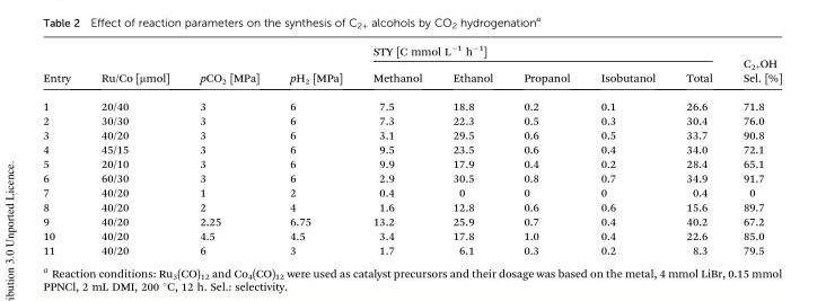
<table><thead><tr><td rowspan="2">Entry</td><td rowspan="2">Ru/Co [μmol]</td><td rowspan="2">pCO<sub>2</sub> [MPa]</td><td rowspan="2">pH<sub>2</sub> [MPa]</td><td colspan="5">STY [C mmol L<sup>–1</sup> h<sup>–1</sup>]</td><td rowspan="2">C<sub>2+</sub>OH Sel. [%]</td></tr><tr><td>Methanol</td><td>Ethanol</td><td>Propanol</td><td>Isobutanol</td><td>Total</td></tr></thead><tbody><tr><td>1</td><td>20/40</td><td>3</td><td>6</td><td>7.5</td><td>18.8</td><td>0.2</td><td>0.1</td><td>26.6</td><td>71.8</td></tr><tr><td>2</td><td>30/30</td><td>3</td><td>6</td><td>7.3</td><td>22.3</td><td>0.5</td><td>0.3</td><td>30.4</td><td>76.0</td></tr><tr><td>3</td><td>40/20</td><td>3</td><td>6</td><td>3.1</td><td>29.5</td><td>0.6</td><td>0.5</td><td>33.7</td><td>90.8</td></tr><tr><td>4</td><td>45/15</td><td>3</td><td>6</td><td>9.5</td><td>23.5</td><td>0.6</td><td>0.4</td><td>34.0</td><td>72.1</td></tr><tr><td>5</td><td>20/10</td><td>3</td><td>6</td><td>9.9</td><td>17.9</td><td>0.4</td><td>0.2</td><td>28.4</td><td>65.1</td></tr><tr><td>6</td><td>60/30</td><td>3</td><td>6</td><td>2.9</td><td>30.5</td><td>0.8</td><td>0.7</td><td>34.9</td><td>91.7</td></tr><tr><td>7</td><td>40/20</td><td>1</td><td>2</td><td>0.4</td><td>0</td><td>0</td><td>0</td><td>0.4</td><td>0</td></tr><tr><td>8</td><td>40/20</td><td>2</td><td>4</td><td>1.6</td><td>12.8</td><td>0.6</td><td>0.6</td><td>15.6</td><td>89.7</td></tr><tr><td>9</td><td>40/20</td><td>2.25</td><td>6.75</td><td>13.2</td><td>25.9</td><td>0.7</td><td>0.4</td><td>40.2</td><td>67.2</td></tr><tr><td>10</td><td>40/20</td><td>4.5</td><td>4.5</td><td>3.4</td><td>17.8</td><td>1.0</td><td>0.4</td><td>22.6</td><td>85.0</td></tr><tr><td>11</td><td>40/20</td><td>6</td><td>3</td><td>1.7</td><td>6.1</td><td>0.3</td><td>0.2</td><td>8.3</td><td>79.5</td></tr></tbody></table>